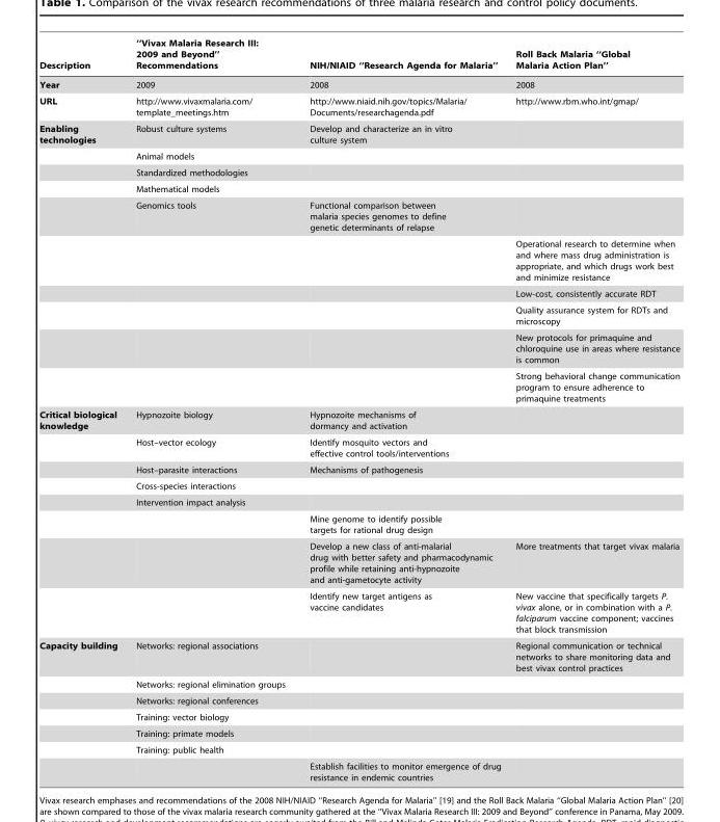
<table><thead><tr><td>Description</td><td>‘‘Vivax Malaria Research III: 2009 and Beyond’’ Recommendations</td><td>NIH/NIAID ‘‘Research Agenda for Malaria’’</td><td>Roll Back Malaria ‘‘Global Malaria Action Plan’’</td></tr></thead><tbody><tr><td>Year</td><td>2009</td><td>2008</td><td>2008</td></tr><tr><td>URL</td><td>http://www.vivaxmalaria.com/ template_meetings.htm</td><td>http://www.niaid.nih.gov/topics/Malaria/ Documents/researchagenda.pdf</td><td>http://www.rbm.who.int/gmap/</td></tr><tr><td rowspan="10">Enabling technologies</td><td>Robust culture systems</td><td>Develop and characterize an in vitro culture system</td><td></td></tr><tr><td>Animal models</td><td></td><td></td></tr><tr><td>Standardized methodologies</td><td></td><td></td></tr><tr><td>Mathematical models</td><td></td><td></td></tr><tr><td>Genomics tools</td><td>Functional comparison between malaria species genomes to define genetic determinants of relapse</td><td></td></tr><tr><td></td><td></td><td>Operational research to determine when and where mass drug administration is appropriate, and which drugs work best and minimize resistance</td></tr><tr><td></td><td></td><td>Low-cost, consistently accurate RDT</td></tr><tr><td></td><td></td><td>Quality assurance system for RDTs and microscopy</td></tr><tr><td></td><td></td><td>New protocols for primaquine and chloroquine use in areas where resistance is common</td></tr><tr><td></td><td></td><td>Strong behavioral change communication program to ensure adherence to primaquine treatments</td></tr><tr><td rowspan="8">Critical biological knowledge</td><td>Hypnozoite biology</td><td>Hypnozoite mechanisms of dormancy and activation</td><td></td></tr><tr><td>Host–vector ecology</td><td>Identify mosquito vectors and effective control tools/interventions</td><td></td></tr><tr><td>Host–parasite interactions</td><td>Mechanisms of pathogenesis</td><td></td></tr><tr><td>Cross-species interactions</td><td></td><td></td></tr><tr><td>Intervention impact analysis</td><td></td><td></td></tr><tr><td></td><td>Mine genome to identify possible targets for rational drug design</td><td></td></tr><tr><td></td><td>Develop a new class of anti-malarial drug with better safety and pharmacodynamic profile while retaining anti-hypnozoite and anti-gametocyte activity</td><td>More treatments that target vivax malaria</td></tr><tr><td></td><td>Identify new target antigens as vaccine candidates</td><td>New vaccine that specifically targets P. vivax alone, or in combination with a P. falciparum vaccine component; vaccines that block transmission</td></tr><tr><td rowspan="7">Capacity building</td><td>Networks: regional associations</td><td></td><td>Regional communication or technical networks to share monitoring data and best vivax control practices</td></tr><tr><td>Networks: regional elimination groups</td><td></td><td></td></tr><tr><td>Networks: regional conferences</td><td></td><td></td></tr><tr><td>Training: vector biology</td><td></td><td></td></tr><tr><td>Training: primate models</td><td></td><td></td></tr><tr><td>Training: public health</td><td></td><td></td></tr><tr><td></td><td>Establish facilities to monitor emergence of drug resistance in endemic countries</td><td></td></tr></tbody></table>